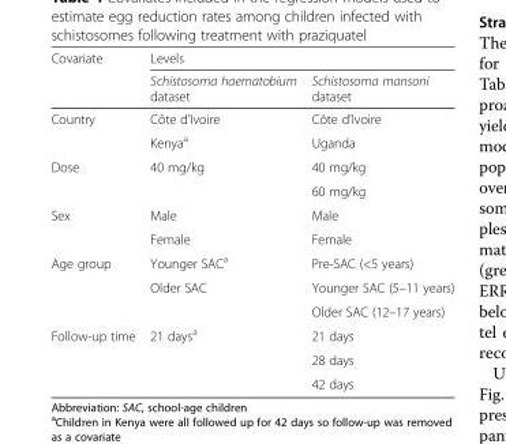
<table><thead><tr><td rowspan="2">Covariate</td><td rowspan="2">Levels Schistosoma haematobium dataset</td><td rowspan="2">Schistosoma mansoni dataset</td></tr><tr></tr></thead><tbody><tr><td rowspan="2">Country</td><td>Côte d’Ivoire</td><td>Côte d’Ivoire</td></tr><tr><td>Kenya<sup>a</sup></td><td>Uganda</td></tr><tr><td rowspan="2">Dose</td><td>40 mg/kg</td><td>40 mg/kg</td></tr><tr><td></td><td>60 mg/kg</td></tr><tr><td rowspan="2">Sex</td><td>Male</td><td>Male</td></tr><tr><td>Female</td><td>Female</td></tr><tr><td rowspan="3">Age group</td><td>Younger SAC<sup>a</sup></td><td>Pre-SAC (&lt;5 years)</td></tr><tr><td>Older SAC</td><td>Younger SAC (5–11 years)</td></tr><tr><td></td><td>Older SAC (12–17 years)</td></tr><tr><td rowspan="3">Follow-up time</td><td>21 days<sup>a</sup></td><td>21 days</td></tr><tr><td></td><td>28 days</td></tr><tr><td></td><td>42 days</td></tr></tbody></table>